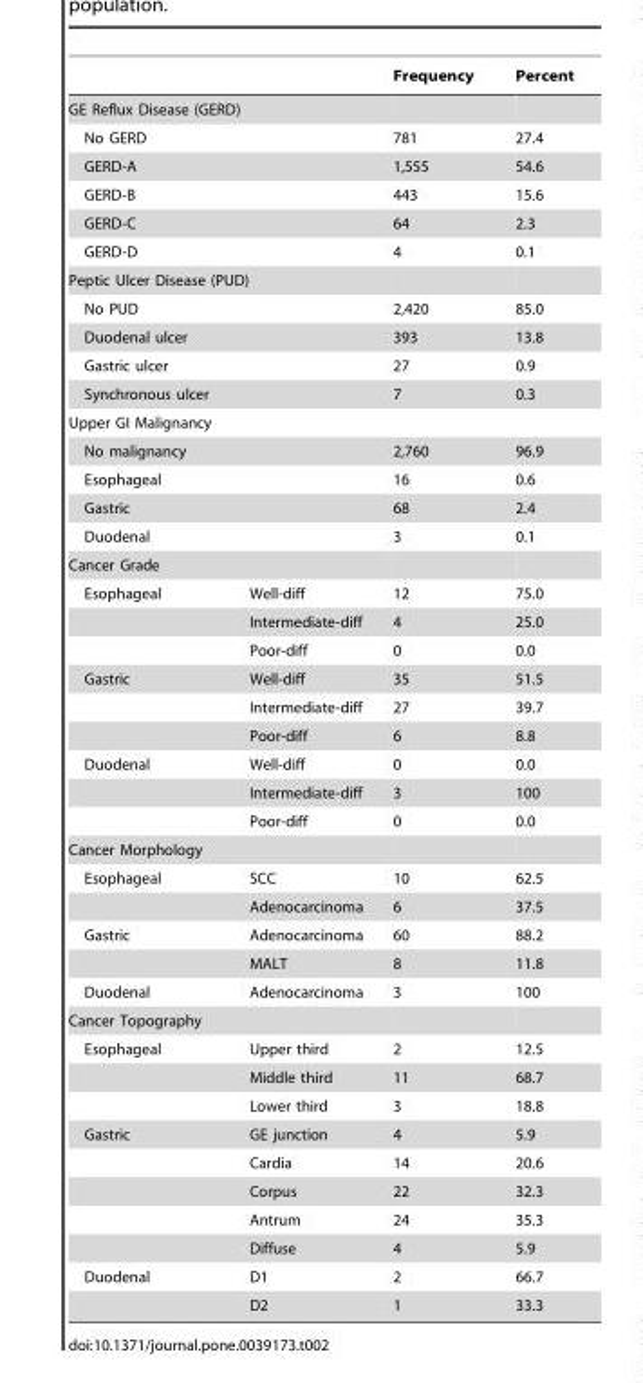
<table><thead><tr><td></td><td></td><td>Frequency</td><td>Percent</td></tr></thead><tbody><tr><td colspan="4">GE Reflux Disease (GERD)</td></tr><tr><td colspan="2">No GERD</td><td>781</td><td>27.4</td></tr><tr><td colspan="2">GERD-A</td><td>1,555</td><td>54.6</td></tr><tr><td colspan="2">GERD-B</td><td>443</td><td>15.6</td></tr><tr><td colspan="2">GERD-C</td><td>64</td><td>2.3</td></tr><tr><td colspan="2">GERD-D</td><td>4</td><td>0.1</td></tr><tr><td colspan="4">Peptic Ulcer Disease (PUD)</td></tr><tr><td colspan="2">No PUD</td><td>2,420</td><td>85.0</td></tr><tr><td colspan="2">Duodenal ulcer</td><td>393</td><td>13.8</td></tr><tr><td colspan="2">Gastric ulcer</td><td>27</td><td>0.9</td></tr><tr><td colspan="2">Synchronous ulcer</td><td>7</td><td>0.3</td></tr><tr><td colspan="4">Upper GI Malignancy</td></tr><tr><td colspan="2">No malignancy</td><td>2,760</td><td>96.9</td></tr><tr><td colspan="2">Esophageal</td><td>16</td><td>0.6</td></tr><tr><td colspan="2">Gastric</td><td>68</td><td>2.4</td></tr><tr><td colspan="2">Duodenal</td><td>3</td><td>0.1</td></tr><tr><td colspan="4">Cancer Grade</td></tr><tr><td rowspan="3">Esophageal</td><td>Well-diff</td><td>12</td><td>75.0</td></tr><tr><td>Intermediate-diff</td><td>4</td><td>25.0</td></tr><tr><td>Poor-diff</td><td>0</td><td>0.0</td></tr><tr><td rowspan="3">Gastric</td><td>Well-diff</td><td>35</td><td>51.5</td></tr><tr><td>Intermediate-diff</td><td>27</td><td>39.7</td></tr><tr><td>Poor-diff</td><td>6</td><td>8.8</td></tr><tr><td rowspan="3">Duodenal</td><td>Well-diff</td><td>0</td><td>0.0</td></tr><tr><td>Intermediate-diff</td><td>3</td><td>100</td></tr><tr><td>Poor-diff</td><td>0</td><td>0.0</td></tr><tr><td colspan="4">Cancer Morphology</td></tr><tr><td rowspan="2">Esophageal</td><td>SCC</td><td>10</td><td>62.5</td></tr><tr><td>Adenocarcinoma</td><td>6</td><td>37.5</td></tr><tr><td rowspan="2">Gastric</td><td>Adenocarcinoma</td><td>60</td><td>88.2</td></tr><tr><td>MALT</td><td>8</td><td>11.8</td></tr><tr><td>Duodenal</td><td>Adenocarcinoma</td><td>3</td><td>100</td></tr><tr><td colspan="4">Cancer Topography</td></tr><tr><td rowspan="3">Esophageal</td><td>Upper third</td><td>2</td><td>12.5</td></tr><tr><td>Middle third</td><td>11</td><td>68.7</td></tr><tr><td>Lower third</td><td>3</td><td>18.8</td></tr><tr><td rowspan="5">Gastric</td><td>GE junction</td><td>4</td><td>5.9</td></tr><tr><td>Cardia</td><td>14</td><td>20.6</td></tr><tr><td>Corpus</td><td>22</td><td>32.3</td></tr><tr><td>Antrum</td><td>24</td><td>35.3</td></tr><tr><td>Diffuse</td><td>4</td><td>5.9</td></tr><tr><td rowspan="2">Duodenal</td><td>D1</td><td>2</td><td>66.7</td></tr><tr><td>D2</td><td>1</td><td>33.3</td></tr></tbody></table>